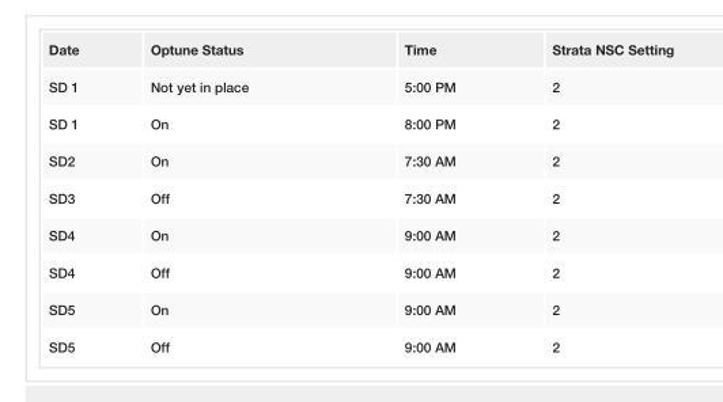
<table><tbody><tr><td>Date</td><td>Optune Status</td><td>Time</td><td>Strata NSC Setting</td></tr><tr><td>SD 1</td><td>Not yet in place</td><td>5:00 PM</td><td>2</td></tr><tr><td>SD 1</td><td>On</td><td>8:00 PM</td><td>2</td></tr><tr><td>SD2</td><td>On</td><td>7:30 AM</td><td>2</td></tr><tr><td>SD3</td><td>Off</td><td>7:30 AM</td><td>2</td></tr><tr><td>SD4</td><td>On</td><td>9:00 AM</td><td>2</td></tr><tr><td>SD4</td><td>Off</td><td>9:00 AM</td><td>2</td></tr><tr><td>SD5</td><td>On</td><td>9:00 AM</td><td>2</td></tr><tr><td>SD5</td><td>Off</td><td>9:00 AM</td><td>2</td></tr></tbody></table>